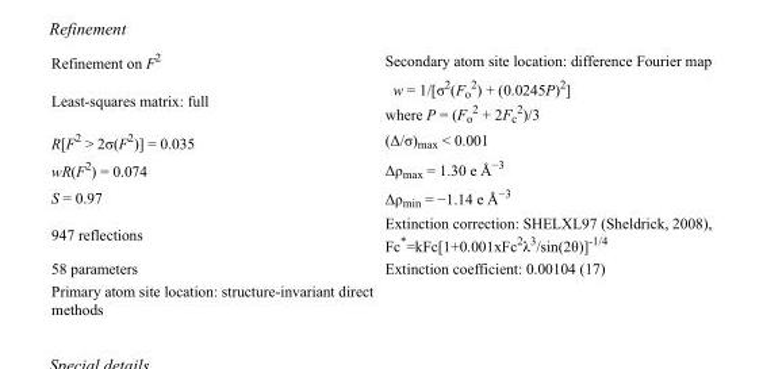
<table><tbody><tr><td>Refinement on F<sup>2</sup></td><td>Secondary atom site location: difference Fourier map</td></tr><tr><td>Least-squares matrix: full</td><td>w = 1/[σ<sup>2</sup>(F<sub>o</sub> <sup>2</sup>) + (0.0245P)<sup>2</sup>] where P = (F<sub>o</sub> <sup>2</sup> + 2F<sub>c</sub> <sup>2</sup>)/3</td></tr><tr><td>R[F<sup>2</sup> &gt; 2σ(F<sup>2</sup>)] = 0.035</td><td>(Δ/σ)<sub>max</sub> &lt; 0.001</td></tr><tr><td>wR(F<sup>2</sup>) = 0.074</td><td>Δρ<sub>max</sub> = 1.30 e Å<sup>−3</sup></td></tr><tr><td>S = 0.97</td><td>Δρ<sub>min</sub> = −1.14 e Å<sup>−3</sup></td></tr><tr><td>947 reflections</td><td>Extinction correction: SHELXL97 (Sheldrick, 2008), Fc*=kFc[1+0.001xFc<sup>2</sup>λ<sup>3</sup>/sin(2θ)]<sup>-1/4</sup></td></tr><tr><td>58 parameters</td><td>Extinction coefficient: 0.00104 (17)</td></tr><tr><td>Primary atom site location: structure-invariant direct methods</td><td></td></tr></tbody></table>